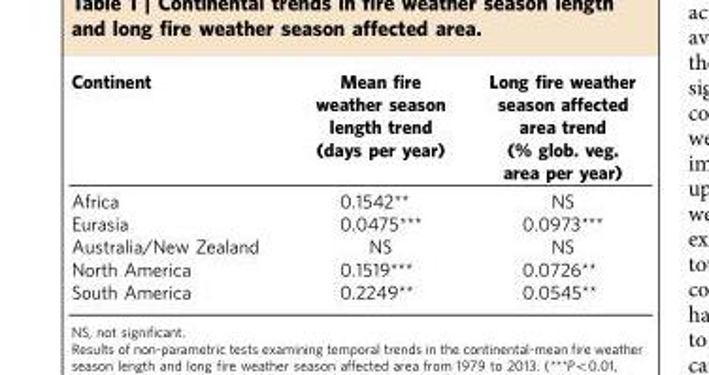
<table><thead><tr><td>Continent</td><td>Mean fire weather season length trend (days per year)</td><td>Long fire weather season affected area trend (% glob. veg. area per year)</td></tr></thead><tbody><tr><td>Africa</td><td>0.1542**</td><td>NS</td></tr><tr><td>Eurasia</td><td>0.0475***</td><td>0.0973***</td></tr><tr><td>Australia/New Zealand</td><td>NS</td><td>NS</td></tr><tr><td>North America</td><td>0.1519***</td><td>0.0726**</td></tr><tr><td>South America</td><td>0.2249**</td><td>0.0545**</td></tr></tbody></table>